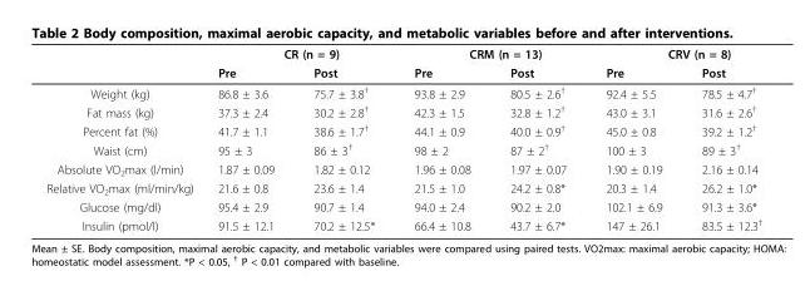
<table><thead><tr><td rowspan="2"></td><td colspan="2">CR (n = 9)</td><td colspan="2">CRM (n = 13)</td><td colspan="2">CRV (n = 8)</td></tr><tr><td>Pre</td><td>Post</td><td>Pre</td><td>Post</td><td>Pre</td><td>Post</td></tr></thead><tbody><tr><td>Weight (kg)</td><td>86.8 ± 3.6</td><td>75.7 ± 3.8<sup>†</sup></td><td>93.8 ± 2.9</td><td>80.5 ± 2.6<sup>†</sup></td><td>92.4 ± 5.5</td><td>78.5 ± 4.7<sup>†</sup></td></tr><tr><td>Fat mass (kg)</td><td>37.3 ± 2.4</td><td>30.2 ± 2.8<sup>†</sup></td><td>42.3 ± 1.5</td><td>32.8 ± 1.2<sup>†</sup></td><td>43.0 ± 3.1</td><td>31.6 ± 2.6<sup>†</sup></td></tr><tr><td>Percent fat (%)</td><td>41.7 ± 1.1</td><td>38.6 ± 1.7<sup>†</sup></td><td>44.1 ± 0.9</td><td>40.0 ± 0.9<sup>†</sup></td><td>45.0 ± 0.8</td><td>39.2 ± 1.2<sup>†</sup></td></tr><tr><td>Waist (cm)</td><td>95 ± 3</td><td>86 ± 3<sup>†</sup></td><td>98 ± 2</td><td>87 ± 2<sup>†</sup></td><td>100 ± 3</td><td>89 ± 3<sup>†</sup></td></tr><tr><td>Absolute VO<sub>2</sub>max (l/min)</td><td>1.87 ± 0.09</td><td>1.82 ± 0.12</td><td>1.96 ± 0.08</td><td>1.97 ± 0.07</td><td>1.90 ± 0.19</td><td>2.16 ± 0.14</td></tr><tr><td>Relative VO<sub>2</sub>max (ml/min/kg)</td><td>21.6 ± 0.8</td><td>23.6 ± 1.4</td><td>21.5 ± 1.0</td><td>24.2 ± 0.8*</td><td>20.3 ± 1.4</td><td>26.2 ± 1.0*</td></tr><tr><td>Glucose (mg/dl)</td><td>95.4 ± 2.9</td><td>90.7 ± 1.4</td><td>94.0 ± 2.4</td><td>90.2 ± 2.0</td><td>102.1 ± 6.9</td><td>91.3 ± 3.6*</td></tr><tr><td>Insulin (pmol/l)</td><td>91.5 ± 12.1</td><td>70.2 ± 12.5*</td><td>66.4 ± 10.8</td><td>43.7 ± 6.7*</td><td>147 ± 26.1</td><td>83.5 ± 12.3<sup>†</sup></td></tr></tbody></table>